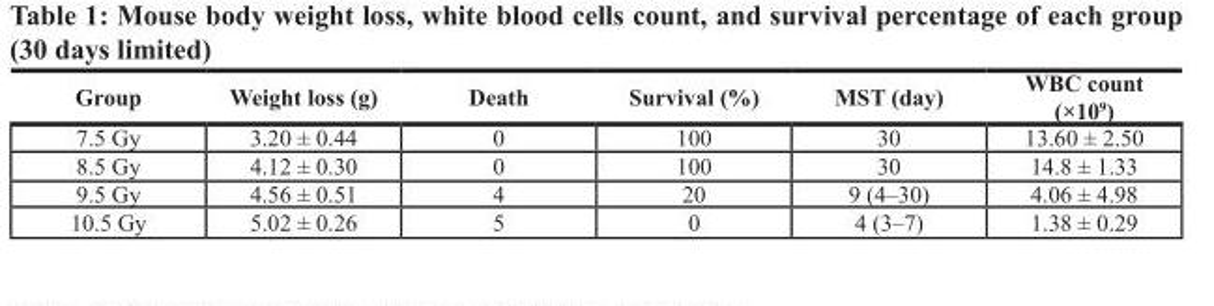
<table><thead><tr><td>Group</td><td>Weight loss (g)</td><td>Death</td><td>Survival (%)</td><td>MST (day)</td><td>WBC count (×10<sup>9</sup>)</td></tr></thead><tbody><tr><td>7.5 Gy</td><td>3.20 ± 0.44</td><td>0</td><td>100</td><td>30</td><td>13.60 ± 2.50</td></tr><tr><td>8.5 Gy</td><td>4.12 ± 0.30</td><td>0</td><td>100</td><td>30</td><td>14.8 ± 1.33</td></tr><tr><td>9.5 Gy</td><td>4.56 ± 0.51</td><td>4</td><td>20</td><td>9 (4–30)</td><td>4.06 ± 4.98</td></tr><tr><td>10.5 Gy</td><td>5.02 ± 0.26</td><td>5</td><td>0</td><td>4 (3–7)</td><td>1.38 ± 0.29</td></tr></tbody></table>